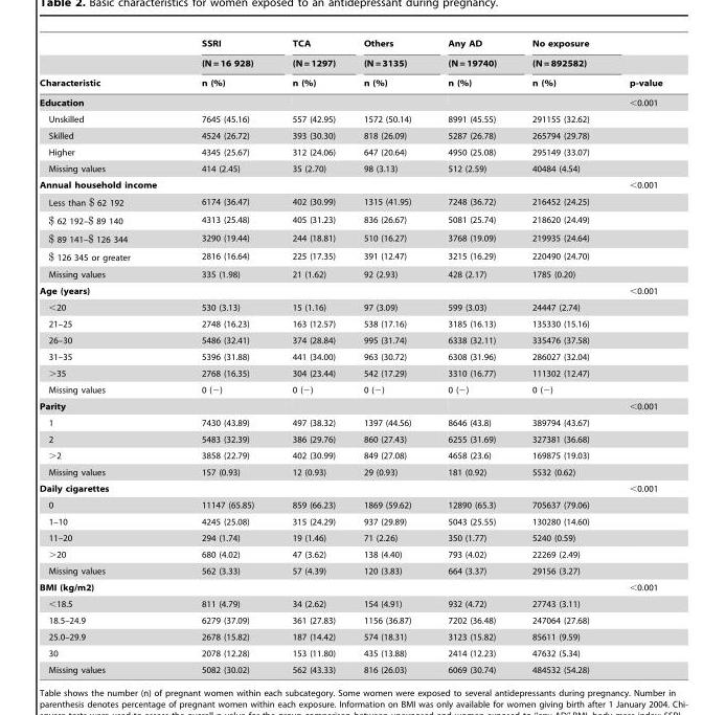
<table><thead><tr><td rowspan="3">Characteristic</td><td rowspan="3">SSRI (N = 16 928) n (%)</td><td rowspan="3">TCA (N = 1297) n (%)</td><td rowspan="3">Others (N = 3135) n (%)</td><td rowspan="3">Any AD (N = 19740) n (%)</td><td rowspan="3">No exposure (N = 892582) n (%)</td><td rowspan="3">p-value</td></tr><tr></tr><tr></tr></thead><tbody><tr><td>Education</td><td></td><td></td><td></td><td></td><td></td><td>&lt;0.001</td></tr><tr><td>Unskilled</td><td>7645 (45.16)</td><td>557 (42.95)</td><td>1572 (50.14)</td><td>8991 (45.55)</td><td>291155 (32.62)</td><td></td></tr><tr><td>Skilled</td><td>4524 (26.72)</td><td>393 (30.30)</td><td>818 (26.09)</td><td>5287 (26.78)</td><td>265794 (29.78)</td><td></td></tr><tr><td>Higher</td><td>4345 (25.67)</td><td>312 (24.06)</td><td>647 (20.64)</td><td>4950 (25.08)</td><td>295149 (33.07)</td><td></td></tr><tr><td>Missing values</td><td>414 (2.45)</td><td>35 (2.70)</td><td>98 (3.13)</td><td>512 (2.59)</td><td>40484 (4.54)</td><td></td></tr><tr><td>Annual household income</td><td></td><td></td><td></td><td></td><td></td><td>&lt;0.001</td></tr><tr><td>Less than $ 62 192</td><td>6174 (36.47)</td><td>402 (30.99)</td><td>1315 (41.95)</td><td>7248 (36.72)</td><td>216452 (24.25)</td><td></td></tr><tr><td>$ 62 192–$ 89 140</td><td>4313 (25.48)</td><td>405 (31.23)</td><td>836 (26.67)</td><td>5081 (25.74)</td><td>218620 (24.49)</td><td></td></tr><tr><td>$ 89 141–$ 126 344</td><td>3290 (19.44)</td><td>244 (18.81)</td><td>510 (16.27)</td><td>3768 (19.09)</td><td>219935 (24.64)</td><td></td></tr><tr><td>$ 126 345 or greater</td><td>2816 (16.64)</td><td>225 (17.35)</td><td>391 (12.47)</td><td>3215 (16.29)</td><td>220490 (24.70)</td><td></td></tr><tr><td>Missing values</td><td>335 (1.98)</td><td>21 (1.62)</td><td>92 (2.93)</td><td>428 (2.17)</td><td>1785 (0.20)</td><td></td></tr><tr><td>Age (years)</td><td></td><td></td><td></td><td></td><td></td><td>&lt;0.001</td></tr><tr><td>&lt;20</td><td>530 (3.13)</td><td>15 (1.16)</td><td>97 (3.09)</td><td>599 (3.03)</td><td>24447 (2.74)</td><td></td></tr><tr><td>21–25</td><td>2748 (16.23)</td><td>163 (12.57)</td><td>538 (17.16)</td><td>3185 (16.13)</td><td>135330 (15.16)</td><td></td></tr><tr><td>26–30</td><td>5486 (32.41)</td><td>374 (28.84)</td><td>995 (31.74)</td><td>6338 (32.11)</td><td>335476 (37.58)</td><td></td></tr><tr><td>31–35</td><td>5396 (31.88)</td><td>441 (34.00)</td><td>963 (30.72)</td><td>6308 (31.96)</td><td>286027 (32.04)</td><td></td></tr><tr><td>&gt;35</td><td>2768 (16.35)</td><td>304 (23.44)</td><td>542 (17.29)</td><td>3310 (16.77)</td><td>111302 (12.47)</td><td></td></tr><tr><td>Missing values</td><td>0 (−)</td><td>0 (−)</td><td>0 (−)</td><td>0 (−)</td><td>0 (−)</td><td></td></tr><tr><td>Parity</td><td></td><td></td><td></td><td></td><td></td><td>&lt;0.001</td></tr><tr><td>1</td><td>7430 (43.89)</td><td>497 (38.32)</td><td>1397 (44.56)</td><td>8646 (43.8)</td><td>389794 (43.67)</td><td></td></tr><tr><td>2</td><td>5483 (32.39)</td><td>386 (29.76)</td><td>860 (27.43)</td><td>6255 (31.69)</td><td>327381 (36.68)</td><td></td></tr><tr><td>&gt;2</td><td>3858 (22.79)</td><td>402 (30.99)</td><td>849 (27.08)</td><td>4658 (23.6)</td><td>169875 (19.03)</td><td></td></tr><tr><td>Missing values</td><td>157 (0.93)</td><td>12 (0.93)</td><td>29 (0.93)</td><td>181 (0.92)</td><td>5532 (0.62)</td><td></td></tr><tr><td>Daily cigarettes</td><td></td><td></td><td></td><td></td><td></td><td>&lt;0.001</td></tr><tr><td>0</td><td>11147 (65.85)</td><td>859 (66.23)</td><td>1869 (59.62)</td><td>12890 (65.3)</td><td>705637 (79.06)</td><td></td></tr><tr><td>1–10</td><td>4245 (25.08)</td><td>315 (24.29)</td><td>937 (29.89)</td><td>5043 (25.55)</td><td>130280 (14.60)</td><td></td></tr><tr><td>11–20</td><td>294 (1.74)</td><td>19 (1.46)</td><td>71 (2.26)</td><td>350 (1.77)</td><td>5240 (0.59)</td><td></td></tr><tr><td>&gt;20</td><td>680 (4.02)</td><td>47 (3.62)</td><td>138 (4.40)</td><td>793 (4.02)</td><td>22269 (2.49)</td><td></td></tr><tr><td>Missing values</td><td>562 (3.33)</td><td>57 (4.39)</td><td>120 (3.83)</td><td>664 (3.37)</td><td>29156 (3.27)</td><td></td></tr><tr><td>BMI (kg/m2)</td><td></td><td></td><td></td><td></td><td></td><td>&lt;0.001</td></tr><tr><td>&lt;18.5</td><td>811 (4.79)</td><td>34 (2.62)</td><td>154 (4.91)</td><td>932 (4.72)</td><td>27743 (3.11)</td><td></td></tr><tr><td>18.5–24.9</td><td>6279 (37.09)</td><td>361 (27.83)</td><td>1156 (36.87)</td><td>7202 (36.48)</td><td>247064 (27.68)</td><td></td></tr><tr><td>25.0–29.9</td><td>2678 (15.82)</td><td>187 (14.42)</td><td>574 (18.31)</td><td>3123 (15.82)</td><td>85611 (9.59)</td><td></td></tr><tr><td>30</td><td>2078 (12.28)</td><td>153 (11.80)</td><td>435 (13.88)</td><td>2414 (12.23)</td><td>47632 (5.34)</td><td></td></tr><tr><td>Missing values</td><td>5082 (30.02)</td><td>562 (43.33)</td><td>816 (26.03)</td><td>6069 (30.74)</td><td>484532 (54.28)</td><td></td></tr></tbody></table>